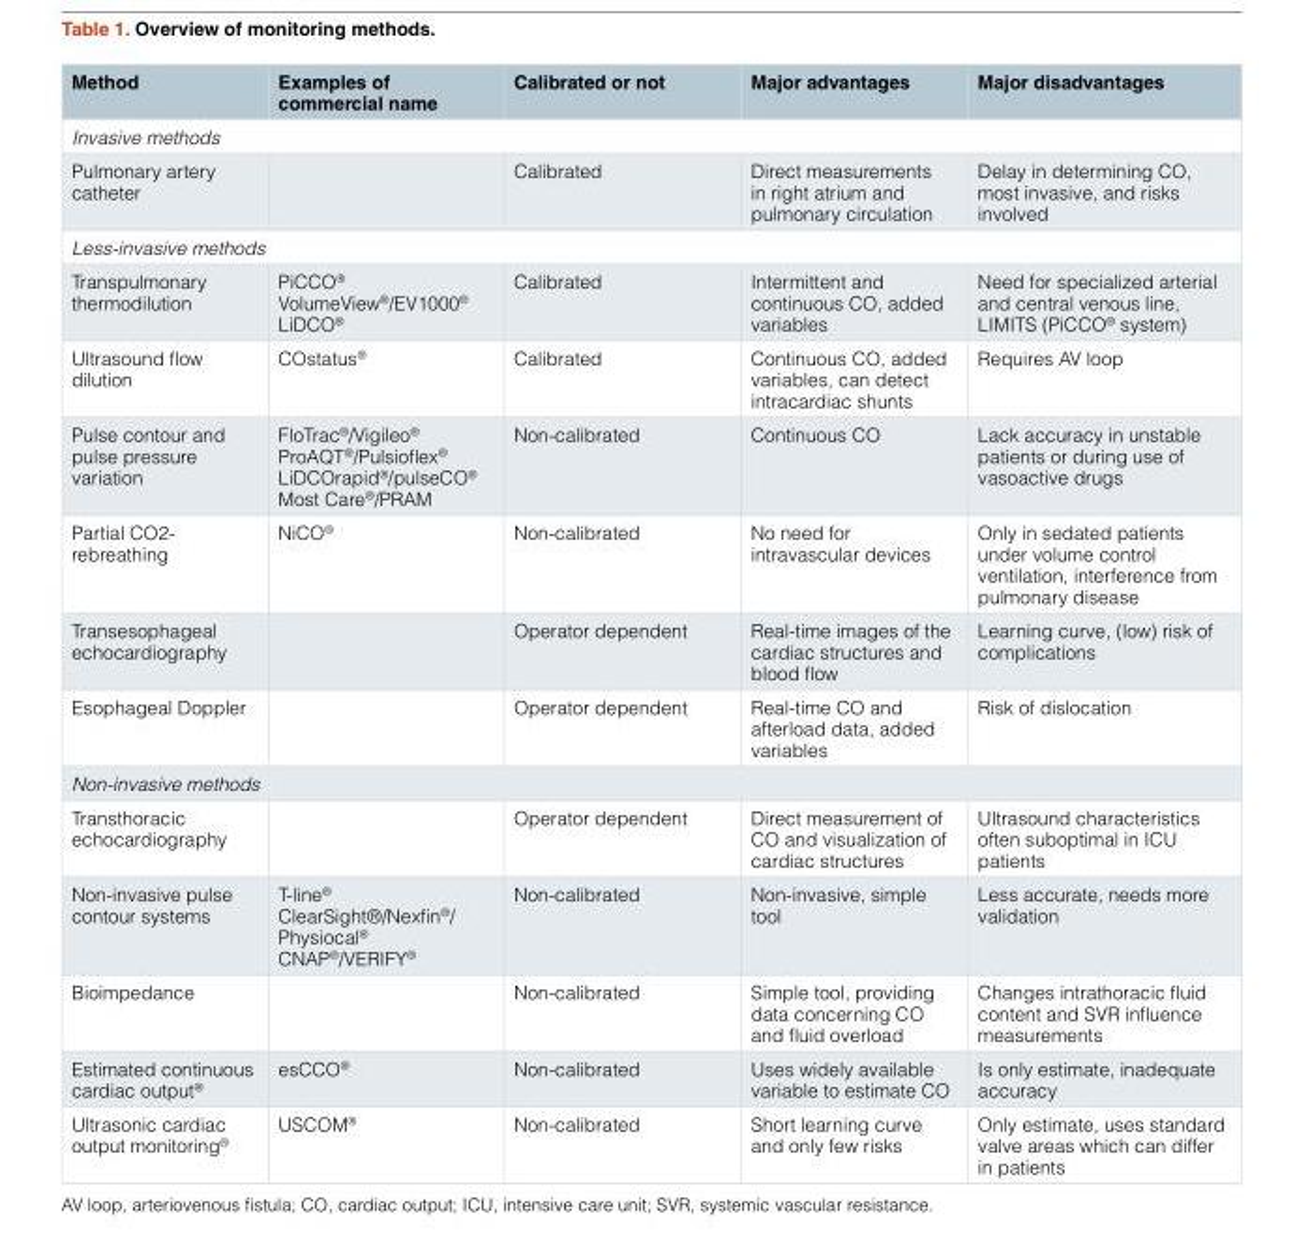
<table><thead><tr><td>Method</td><td>Examples of commercial name</td><td>Calibrated or not</td><td>Major advantages</td><td>Major disadvantages</td></tr></thead><tbody><tr><td colspan="5">Invasive methods</td></tr><tr><td>Pulmonary artery catheter</td><td></td><td>Calibrated</td><td>Direct measurements in right atrium and pulmonary circulation</td><td>Delay in determining CO, most invasive, and risks involved</td></tr><tr><td colspan="5">Less-invasive methods</td></tr><tr><td>Transpulmonary thermodilution</td><td>PiCCO<sup>®</sup> VolumeView<sup>®</sup>/EV1000<sup>®</sup> LiDCO<sup>®</sup></td><td>Calibrated</td><td>Intermittent and continuous CO, added variables</td><td>Need for specialized arterial and central venous line, LIMITS (PiCCO<sup>®</sup> system)</td></tr><tr><td>Ultrasound flow dilution</td><td>COstatus<sup>®</sup></td><td>Calibrated</td><td>Continuous CO, added variables, can detect intracardiac shunts</td><td>Requires AV loop</td></tr><tr><td>Pulse contour and pulse pressure variation</td><td>FloTrac<sup>®</sup>/Vigileo<sup>®</sup> ProAQT<sup>®</sup>/Pulsioflex<sup>®</sup> LiDCOrapid<sup>®</sup>/pulseCO<sup>®</sup> Most Care<sup>®</sup>/PRAM</td><td>Non-calibrated</td><td>Continuous CO</td><td>Lack accuracy in unstable patients or during use of vasoactive drugs</td></tr><tr><td>Partial CO<sub>2</sub>- rebreathing</td><td>NiCO<sup>®</sup></td><td>Non-calibrated</td><td>No need for intravascular devices</td><td>Only in sedated patients under volume control ventilation, interference from pulmonary disease</td></tr><tr><td>Transesophageal echocardiography</td><td></td><td>Operator dependent</td><td>Real-time images of the cardiac structures and blood flow</td><td>Learning curve, (low) risk of complications</td></tr><tr><td>Esophageal Doppler</td><td></td><td>Operator dependent</td><td>Real-time CO and afterload data, added variables</td><td>Risk of dislocation</td></tr><tr><td colspan="5">Non-invasive methods</td></tr><tr><td>Transthoracic echocardiography</td><td></td><td>Operator dependent</td><td>Direct measurement of CO and visualization of cardiac structures</td><td>Ultrasound characteristics often suboptimal in ICU patients</td></tr><tr><td>Non-invasive pulse contour systems</td><td>T-line<sup>®</sup> ClearSight<sup>®</sup>/Nexfin<sup>®</sup>/ Physiocal<sup>®</sup> CNAP<sup>®</sup>/VERIFY<sup>®</sup></td><td>Non-calibrated</td><td>Non-invasive, simple tool</td><td>Less accurate, needs more validation</td></tr><tr><td>Bioimpedance</td><td></td><td>Non-calibrated</td><td>Simple tool, providing data concerning CO and fluid overload</td><td>Changes intrathoracic fluid content and SVR influence measurements</td></tr><tr><td>Estimated continuous cardiac output<sup>®</sup></td><td>esCCO<sup>®</sup></td><td>Non-calibrated</td><td>Uses widely available variable to estimate CO</td><td>Is only estimate, inadequate accuracy</td></tr><tr><td>Ultrasonic cardiac output monitoring<sup>®</sup></td><td>USCOM<sup>®</sup></td><td>Non-calibrated</td><td>Short learning curve and only few risks</td><td>Only estimate, uses standard valve areas which can differ in patients</td></tr></tbody></table>